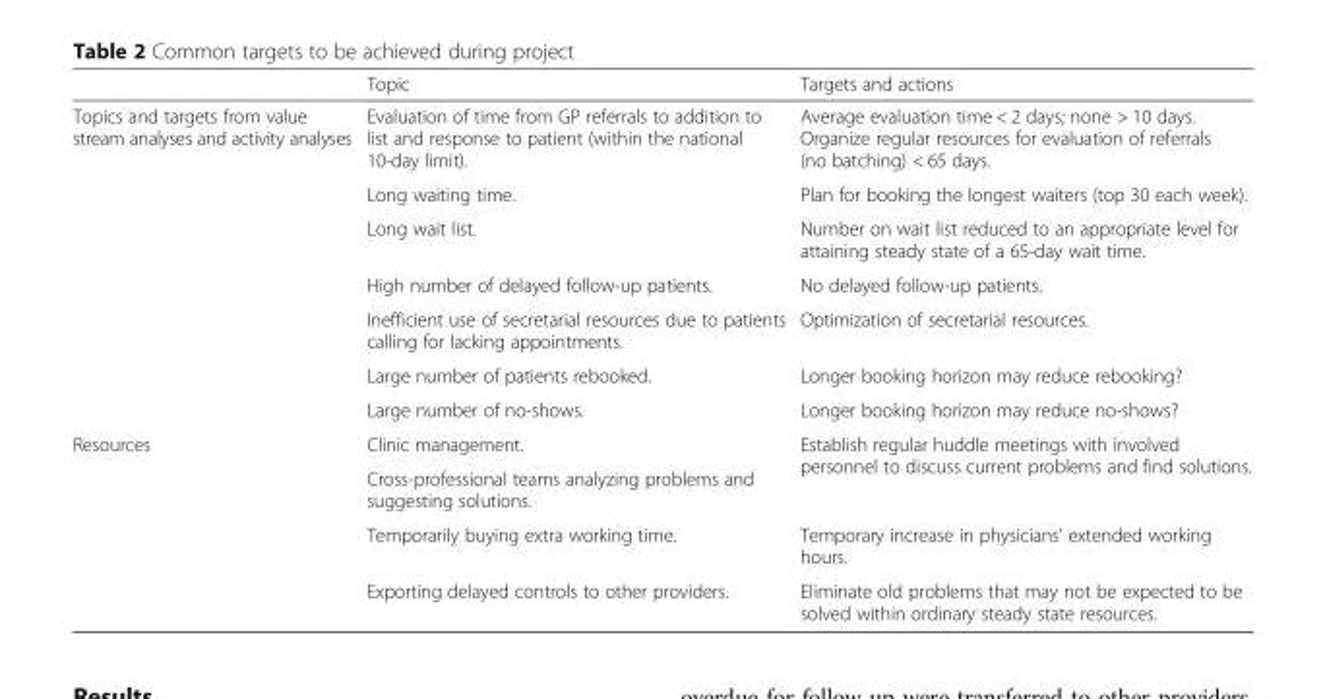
<table><thead><tr><td></td><td>Topic</td><td>Targets and actions</td></tr></thead><tbody><tr><td rowspan="7">Topics and targets from value stream analyses and activity analyses</td><td>Evaluation of time from GP referrals to addition to list and response to patient (within the national 10-day limit).</td><td>Average evaluation time &lt; 2 days; none &gt; 10 days. Organize regular resources for evaluation of referrals (no batching) &lt; 65 days.</td></tr><tr><td>Long waiting time.</td><td>Plan for booking the longest waiters (top 30 each week).</td></tr><tr><td>Long wait list.</td><td>Number on wait list reduced to an appropriate level for attaining steady state of a 65-day wait time.</td></tr><tr><td>High number of delayed follow-up patients.</td><td>No delayed follow-up patients.</td></tr><tr><td>Inefficient use of secretarial resources due to patients calling for lacking appointments.</td><td>Optimization of secretarial resources.</td></tr><tr><td>Large number of patients rebooked.</td><td>Longer booking horizon may reduce rebooking?</td></tr><tr><td>Large number of no-shows.</td><td>Longer booking horizon may reduce no-shows?</td></tr><tr><td rowspan="4">Resources</td><td>Clinic management.</td><td rowspan="2">Establish regular huddle meetings with involved personnel to discuss current problems and find solutions.</td></tr><tr><td>Cross-professional teams analyzing problems and suggesting solutions.</td></tr><tr><td>Temporarily buying extra working time.</td><td>Temporary increase in physicians’ extended working hours.</td></tr><tr><td>Exporting delayed controls to other providers.</td><td>Eliminate old problems that may not be expected to be solved within ordinary steady state resources.</td></tr></tbody></table>